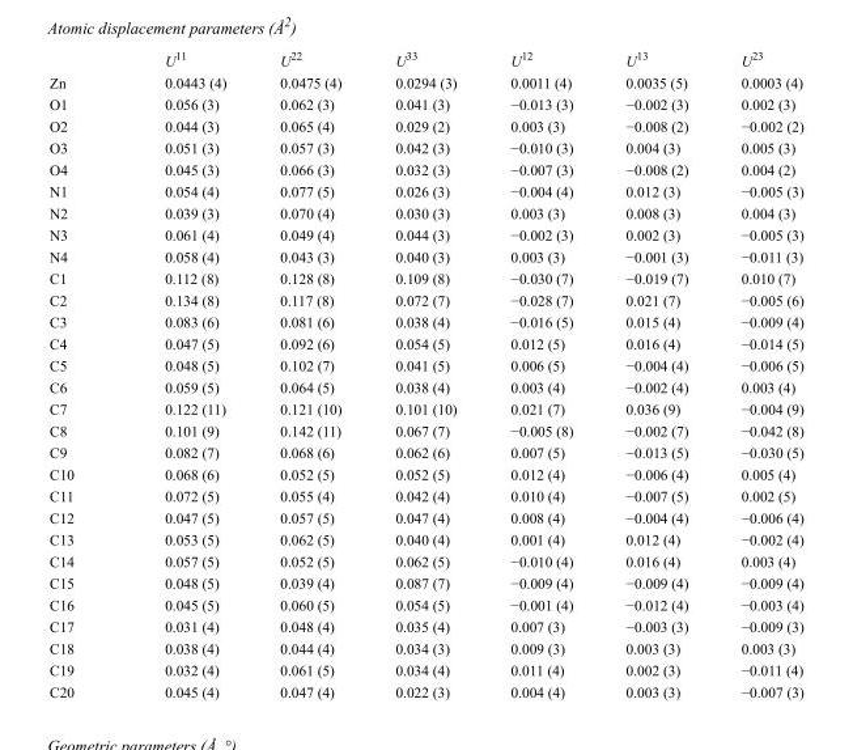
<table><thead><tr><td></td><td>U<sup>11</sup></td><td>U<sup>22</sup></td><td>U<sup>33</sup></td><td>U<sup>12</sup></td><td>U<sup>13</sup></td><td>U<sup>23</sup></td></tr></thead><tbody><tr><td>Zn</td><td>0.0443 (4)</td><td>0.0475 (4)</td><td>0.0294 (3)</td><td>0.0011 (4)</td><td>0.0035 (5)</td><td>0.0003 (4)</td></tr><tr><td>O1</td><td>0.056 (3)</td><td>0.062 (3)</td><td>0.041 (3)</td><td>−0.013 (3)</td><td>−0.002 (3)</td><td>0.002 (3)</td></tr><tr><td>O2</td><td>0.044 (3)</td><td>0.065 (4)</td><td>0.029 (2)</td><td>0.003 (3)</td><td>−0.008 (2)</td><td>−0.002 (2)</td></tr><tr><td>O3</td><td>0.051 (3)</td><td>0.057 (3)</td><td>0.042 (3)</td><td>−0.010 (3)</td><td>0.004 (3)</td><td>0.005 (3)</td></tr><tr><td>O4</td><td>0.045 (3)</td><td>0.066 (3)</td><td>0.032 (3)</td><td>−0.007 (3)</td><td>−0.008 (2)</td><td>0.004 (2)</td></tr><tr><td>N1</td><td>0.054 (4)</td><td>0.077 (5)</td><td>0.026 (3)</td><td>−0.004 (4)</td><td>0.012 (3)</td><td>−0.005 (3)</td></tr><tr><td>N2</td><td>0.039 (3)</td><td>0.070 (4)</td><td>0.030 (3)</td><td>0.003 (3)</td><td>0.008 (3)</td><td>0.004 (3)</td></tr><tr><td>N3</td><td>0.061 (4)</td><td>0.049 (4)</td><td>0.044 (3)</td><td>−0.002 (3)</td><td>0.002 (3)</td><td>−0.005 (3)</td></tr><tr><td>N4</td><td>0.058 (4)</td><td>0.043 (3)</td><td>0.040 (3)</td><td>0.003 (3)</td><td>−0.001 (3)</td><td>−0.011 (3)</td></tr><tr><td>C1</td><td>0.112 (8)</td><td>0.128 (8)</td><td>0.109 (8)</td><td>−0.030 (7)</td><td>−0.019 (7)</td><td>0.010 (7)</td></tr><tr><td>C2</td><td>0.134 (8)</td><td>0.117 (8)</td><td>0.072 (7)</td><td>−0.028 (7)</td><td>0.021 (7)</td><td>−0.005 (6)</td></tr><tr><td>C3</td><td>0.083 (6)</td><td>0.081 (6)</td><td>0.038 (4)</td><td>−0.016 (5)</td><td>0.015 (4)</td><td>−0.009 (4)</td></tr><tr><td>C4</td><td>0.047 (5)</td><td>0.092 (6)</td><td>0.054 (5)</td><td>0.012 (5)</td><td>0.016 (4)</td><td>−0.014 (5)</td></tr><tr><td>C5</td><td>0.048 (5)</td><td>0.102 (7)</td><td>0.041 (5)</td><td>0.006 (5)</td><td>−0.004 (4)</td><td>−0.006 (5)</td></tr><tr><td>C6</td><td>0.059 (5)</td><td>0.064 (5)</td><td>0.038 (4)</td><td>0.003 (4)</td><td>−0.002 (4)</td><td>0.003 (4)</td></tr><tr><td>C7</td><td>0.122 (11)</td><td>0.121 (10)</td><td>0.101 (10)</td><td>0.021 (7)</td><td>0.036 (9)</td><td>−0.004 (9)</td></tr><tr><td>C8</td><td>0.101 (9)</td><td>0.142 (11)</td><td>0.067 (7)</td><td>−0.005 (8)</td><td>−0.002 (7)</td><td>−0.042 (8)</td></tr><tr><td>C9</td><td>0.082 (7)</td><td>0.068 (6)</td><td>0.062 (6)</td><td>0.007 (5)</td><td>−0.013 (5)</td><td>−0.030 (5)</td></tr><tr><td>C10</td><td>0.068 (6)</td><td>0.052 (5)</td><td>0.052 (5)</td><td>0.012 (4)</td><td>−0.006 (4)</td><td>0.005 (4)</td></tr><tr><td>C11</td><td>0.072 (5)</td><td>0.055 (4)</td><td>0.042 (4)</td><td>0.010 (4)</td><td>−0.007 (5)</td><td>0.002 (5)</td></tr><tr><td>C12</td><td>0.047 (5)</td><td>0.057 (5)</td><td>0.047 (4)</td><td>0.008 (4)</td><td>−0.004 (4)</td><td>−0.006 (4)</td></tr><tr><td>C13</td><td>0.053 (5)</td><td>0.062 (5)</td><td>0.040 (4)</td><td>0.001 (4)</td><td>0.012 (4)</td><td>−0.002 (4)</td></tr><tr><td>C14</td><td>0.057 (5)</td><td>0.052 (5)</td><td>0.062 (5)</td><td>−0.010 (4)</td><td>0.016 (4)</td><td>0.003 (4)</td></tr><tr><td>C15</td><td>0.048 (5)</td><td>0.039 (4)</td><td>0.087 (7)</td><td>−0.009 (4)</td><td>−0.009 (4)</td><td>−0.009 (4)</td></tr><tr><td>C16</td><td>0.045 (5)</td><td>0.060 (5)</td><td>0.054 (5)</td><td>−0.001 (4)</td><td>−0.012 (4)</td><td>−0.003 (4)</td></tr><tr><td>C17</td><td>0.031 (4)</td><td>0.048 (4)</td><td>0.035 (4)</td><td>0.007 (3)</td><td>−0.003 (3)</td><td>−0.009 (3)</td></tr><tr><td>C18</td><td>0.038 (4)</td><td>0.044 (4)</td><td>0.034 (3)</td><td>0.009 (3)</td><td>0.003 (3)</td><td>0.003 (3)</td></tr><tr><td>C19</td><td>0.032 (4)</td><td>0.061 (5)</td><td>0.034 (4)</td><td>0.011 (4)</td><td>0.002 (3)</td><td>−0.011 (4)</td></tr><tr><td>C20</td><td>0.045 (4)</td><td>0.047 (4)</td><td>0.022 (3)</td><td>0.004 (4)</td><td>0.003 (3)</td><td>−0.007 (3)</td></tr></tbody></table>